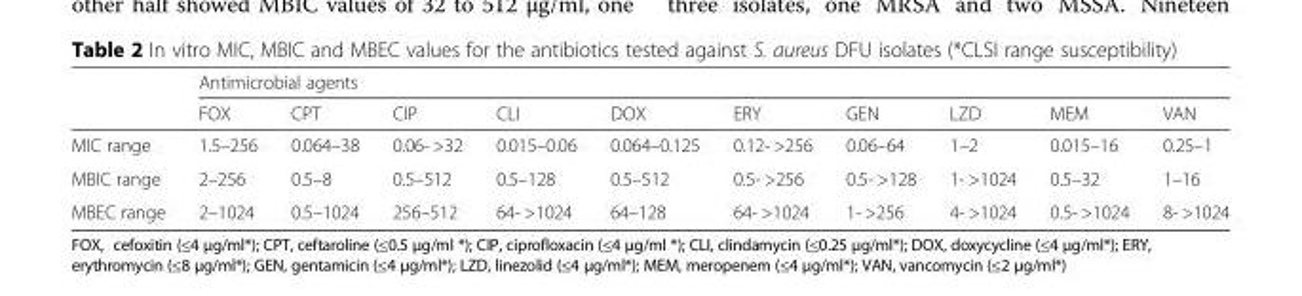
<table><thead><tr><td rowspan="2"></td><td colspan="10">Antimicrobial agents</td></tr><tr><td>FOX</td><td>CPT</td><td>CIP</td><td>CLI</td><td>DOX</td><td>ERY</td><td>GEN</td><td>LZD</td><td>MEM</td><td>VAN</td></tr></thead><tbody><tr><td>MIC range</td><td>1.5–256</td><td>0.064–38</td><td>0.06- &gt;32</td><td>0.015–0.06</td><td>0.064–0.125</td><td>0.12- &gt;256</td><td>0.06–64</td><td>1–2</td><td>0.015–16</td><td>0.25–1</td></tr><tr><td>MBIC range</td><td>2–256</td><td>0.5–8</td><td>0.5–512</td><td>0.5–128</td><td>0.5–512</td><td>0.5- &gt;256</td><td>0.5- &gt;128</td><td>1- &gt;1024</td><td>0.5–32</td><td>1–16</td></tr><tr><td>MBEC range</td><td>2–1024</td><td>0.5–1024</td><td>256–512</td><td>64- &gt;1024</td><td>64–128</td><td>64- &gt;1024</td><td>1- &gt;256</td><td>4- &gt;1024</td><td>0.5- &gt;1024</td><td>8- &gt;1024</td></tr></tbody></table>